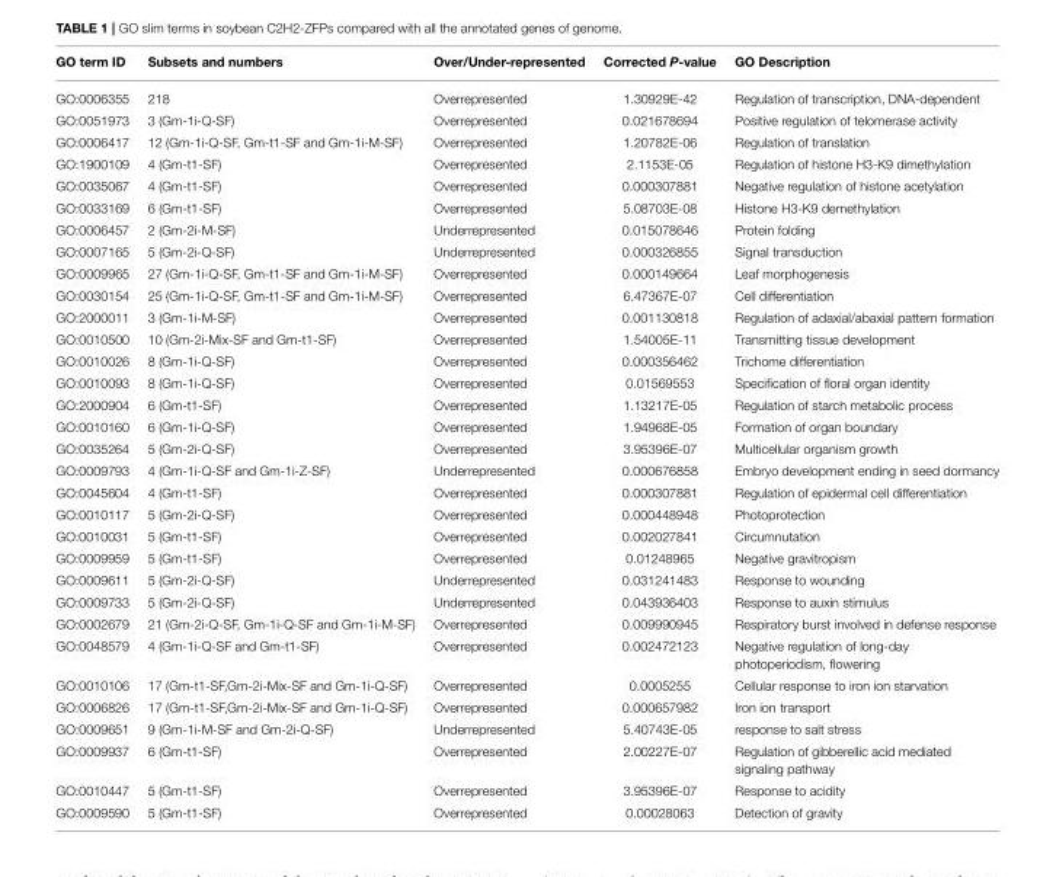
<table><thead><tr><td>GO term ID</td><td>Subsets and numbers</td><td>Over/Under-represented</td><td>Corrected P-value</td><td>GO Description</td></tr></thead><tbody><tr><td>GO:0006355</td><td>218</td><td>Overrepresented</td><td>1.30929E-42</td><td>Regulation of transcription, DNA-dependent</td></tr><tr><td>GO:0051973</td><td>3 (Gm-1i-Q-SF)</td><td>Overrepresented</td><td>0.021678694</td><td>Positive regulation of telomerase activity</td></tr><tr><td>GO:0006417</td><td>12 (Gm-1i-Q-SF, Gm-t1-SF and Gm-1i-M-SF)</td><td>Overrepresented</td><td>1.20782E-06</td><td>Regulation of translation</td></tr><tr><td>GO:1900109</td><td>4 (Gm-t1-SF)</td><td>Overrepresented</td><td>2.1153E-05</td><td>Regulation of histone H3-K9 dimethylation</td></tr><tr><td>GO:0035067</td><td>4 (Gm-t1-SF)</td><td>Overrepresented</td><td>0.000307881</td><td>Negative regulation of histone acetylation</td></tr><tr><td>GO:0033169</td><td>6 (Gm-t1-SF)</td><td>Overrepresented</td><td>5.08703E-08</td><td>Histone H3-K9 demethylation</td></tr><tr><td>GO:0006457</td><td>2 (Gm-2i-M-SF)</td><td>Underrepresented</td><td>0.015078646</td><td>Protein folding</td></tr><tr><td>GO:0007165</td><td>5 (Gm-2i-Q-SF)</td><td>Underrepresented</td><td>0.000326855</td><td>Signal transduction</td></tr><tr><td>GO:0009965</td><td>27 (Gm-1i-Q-SF, Gm-t1-SF and Gm-1i-M-SF)</td><td>Overrepresented</td><td>0.000149664</td><td>Leaf morphogenesis</td></tr><tr><td>GO:0030154</td><td>25 (Gm-1i-Q-SF, Gm-t1-SF and Gm-1i-M-SF)</td><td>Overrepresented</td><td>6.47367E-07</td><td>Cell differentiation</td></tr><tr><td>GO:2000011</td><td>3 (Gm-1i-M-SF)</td><td>Overrepresented</td><td>0.001130818</td><td>Regulation of adaxial/abaxial pattern formation</td></tr><tr><td>GO:0010500</td><td>10 (Gm-2i-Mix-SF and Gm-t1-SF)</td><td>Overrepresented</td><td>1.54005E-11</td><td>Transmitting tissue development</td></tr><tr><td>GO:0010026</td><td>8 (Gm-1i-Q-SF)</td><td>Overrepresented</td><td>0.000356462</td><td>Trichome differentiation</td></tr><tr><td>GO:0010093</td><td>8 (Gm-1i-Q-SF)</td><td>Overrepresented</td><td>0.01569553</td><td>Specification of floral organ identity</td></tr><tr><td>GO:2000904</td><td>6 (Gm-t1-SF)</td><td>Overrepresented</td><td>1.13217E-05</td><td>Regulation of starch metabolic process</td></tr><tr><td>GO:0010160</td><td>6 (Gm-1i-Q-SF)</td><td>Overrepresented</td><td>1.94968E-05</td><td>Formation of organ boundary</td></tr><tr><td>GO:0035264</td><td>5 (Gm-2i-Q-SF)</td><td>Overrepresented</td><td>3.95396E-07</td><td>Multicellular organism growth</td></tr><tr><td>GO:0009793</td><td>4 (Gm-1i-Q-SF and Gm-1i-Z-SF)</td><td>Underrepresented</td><td>0.000676858</td><td>Embryo development ending in seed dormancy</td></tr><tr><td>GO:0045604</td><td>4 (Gm-t1-SF)</td><td>Overrepresented</td><td>0.000307881</td><td>Regulation of epidermal cell differentiation</td></tr><tr><td>GO:0010117</td><td>5 (Gm-2i-Q-SF)</td><td>Overrepresented</td><td>0.000448948</td><td>Photoprotection</td></tr><tr><td>GO:0010031</td><td>5 (Gm-t1-SF)</td><td>Overrepresented</td><td>0.002027841</td><td>Circumnutation</td></tr><tr><td>GO:0009959</td><td>5 (Gm-t1-SF)</td><td>Overrepresented</td><td>0.01248965</td><td>Negative gravitropism</td></tr><tr><td>GO:0009611</td><td>5 (Gm-2i-Q-SF)</td><td>Underrepresented</td><td>0.031241483</td><td>Response to wounding</td></tr><tr><td>GO:0009733</td><td>5 (Gm-2i-Q-SF)</td><td>Underrepresented</td><td>0.043936403</td><td>Response to auxin stimulus</td></tr><tr><td>GO:0002679</td><td>21 (Gm-2i-Q-SF, Gm-1i-Q-SF and Gm-1i-M-SF)</td><td>Overrepresented</td><td>0.009990945</td><td>Respiratory burst involved in defense response</td></tr><tr><td>GO:0048579</td><td>4 (Gm-1i-Q-SF and Gm-t1-SF)</td><td>Overrepresented</td><td>0.002472123</td><td>Negative regulation of long-day photoperiodism, flowering</td></tr><tr><td>GO:0010106</td><td>17 (Gm-t1-SF,Gm-2i-Mix-SF and Gm-1i-Q-SF)</td><td>Overrepresented</td><td>0.0005255</td><td>Cellular response to iron ion starvation</td></tr><tr><td>GO:0006826</td><td>17 (Gm-t1-SF,Gm-2i-Mix-SF and Gm-1i-Q-SF)</td><td>Overrepresented</td><td>0.000657982</td><td>Iron ion transport</td></tr><tr><td>GO:0009651</td><td>9 (Gm-1i-M-SF and Gm-2i-Q-SF)</td><td>Underrepresented</td><td>5.40743E-05</td><td>response to salt stress</td></tr><tr><td>GO:0009937</td><td>6 (Gm-t1-SF)</td><td>Overrepresented</td><td>2.00227E-07</td><td>Regulation of gibberellic acid mediated signaling pathway</td></tr><tr><td>GO:0010447</td><td>5 (Gm-t1-SF)</td><td>Overrepresented</td><td>3.95396E-07</td><td>Response to acidity</td></tr><tr><td>GO:0009590</td><td>5 (Gm-t1-SF)</td><td>Overrepresented</td><td>0.00028063</td><td>Detection of gravity</td></tr></tbody></table>